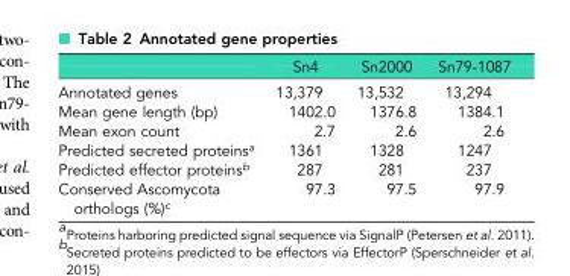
<table><thead><tr><td></td><td>Sn4</td><td>Sn2000</td><td>Sn79-1087</td></tr></thead><tbody><tr><td>Annotated genes</td><td>13,379</td><td>13,532</td><td>13,294</td></tr><tr><td>Mean gene length (bp)</td><td>1402.0</td><td>1376.8</td><td>1384.1</td></tr><tr><td>Mean exon count</td><td>2.7</td><td>2.6</td><td>2.6</td></tr><tr><td>Predicted secreted proteins<sup>a</sup></td><td>1361</td><td>1328</td><td>1247</td></tr><tr><td>Predicted effector proteins<sup>b</sup></td><td>287</td><td>281</td><td>237</td></tr><tr><td>Conserved Ascomycota orthologs (%)<sup>c</sup></td><td>97.3</td><td>97.5</td><td>97.9</td></tr></tbody></table>